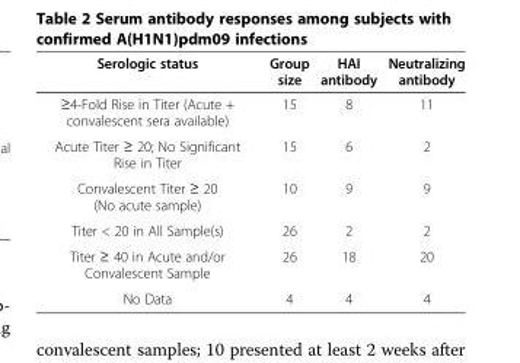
<table><thead><tr><td>Serologic status</td><td>Group size</td><td>HAI antibody</td><td>Neutralizing antibody</td></tr></thead><tbody><tr><td>≥4-Fold Rise in Titer (Acute + convalescent sera available)</td><td>15</td><td>8</td><td>11</td></tr><tr><td>Acute Titer ≥ 20; No Significant Rise in Titer</td><td>15</td><td>6</td><td>2</td></tr><tr><td>Convalescent Titer ≥ 20 (No acute sample)</td><td>10</td><td>9</td><td>9</td></tr><tr><td>Titer &lt; 20 in All Sample(s)</td><td>26</td><td>2</td><td>2</td></tr><tr><td>Titer ≥ 40 in Acute and/or Convalescent Sample</td><td>26</td><td>18</td><td>20</td></tr><tr><td>No Data</td><td>4</td><td>4</td><td>4</td></tr></tbody></table>